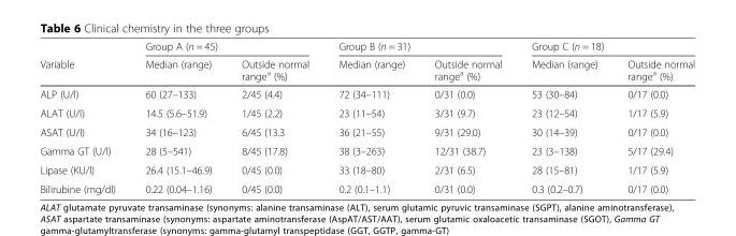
<table><thead><tr><td rowspan="2">Variable</td><td colspan="2">Group A (n = 45)</td><td colspan="2">Group B (n = 31)</td><td colspan="2">Group C (n = 18)</td></tr><tr><td>Median (range)</td><td>Outside normal range<sup>a</sup> (%)</td><td>Median (range)</td><td>Outside normal range<sup>a</sup> (%)</td><td>Median (range)</td><td>Outside normal range<sup>a</sup> (%)</td></tr></thead><tbody><tr><td>ALP (U/l)</td><td>60 (27–133)</td><td>2/45 (4.4)</td><td>72 (34–111)</td><td>0/31 (0.0)</td><td>53 (30–84)</td><td>0/17 (0.0)</td></tr><tr><td>ALAT (U/l)</td><td>14.5 (5.6–51.9)</td><td>1/45 (2.2)</td><td>23 (11–54)</td><td>3/31 (9.7)</td><td>23 (12–54)</td><td>1/17 (5.9)</td></tr><tr><td>ASAT (U/l)</td><td>34 (16–123)</td><td>6/45 (13.3</td><td>36 (21–55)</td><td>9/31 (29.0)</td><td>30 (14–39)</td><td>0/17 (0.0)</td></tr><tr><td>Gamma GT (U/l)</td><td>28 (5–541)</td><td>8/45 (17.8)</td><td>38 (3–263)</td><td>12/31 (38.7)</td><td>23 (3–138)</td><td>5/17 (29.4)</td></tr><tr><td>Lipase (KU/l)</td><td>26.4 (15.1–46.9)</td><td>0/45 (0.0)</td><td>33 (18–80)</td><td>2/31 (6.5)</td><td>28 (15–81)</td><td>1/17 (5.9)</td></tr><tr><td>Bilirubine (mg/dl)</td><td>0.22 (0.04–1.16)</td><td>0/45 (0.0)</td><td>0.2 (0.1–1.1)</td><td>0/31 (0.0)</td><td>0.3 (0.2–0.7)</td><td>0/17 (0.0)</td></tr></tbody></table>